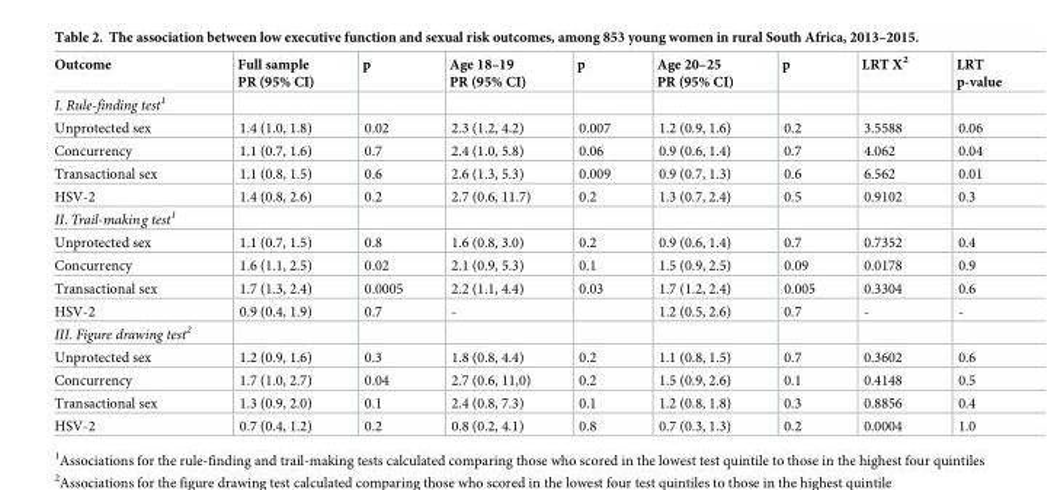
<table><thead><tr><td>Outcome</td><td>Full sample PR (95% CI)</td><td>p</td><td>Age 18–19 PR (95% CI)</td><td>p</td><td>Age 20–25 PR (95% CI)</td><td>p</td><td>LRT X<sup>2</sup></td><td>LRT p-value</td></tr></thead><tbody><tr><td colspan="9">I. Rule-finding test<sup>1</sup></td></tr><tr><td>Unprotected sex</td><td>1.4 (1.0, 1.8)</td><td>0.02</td><td>2.3 (1.2, 4.2)</td><td>0.007</td><td>1.2 (0.9, 1.6)</td><td>0.2</td><td>3.5588</td><td>0.06</td></tr><tr><td>Concurrency</td><td>1.1 (0.7, 1.6)</td><td>0.7</td><td>2.4 (1.0, 5.8)</td><td>0.06</td><td>0.9 (0.6, 1.4)</td><td>0.7</td><td>4.062</td><td>0.04</td></tr><tr><td>Transactional sex</td><td>1.1 (0.8, 1.5)</td><td>0.6</td><td>2.6 (1.3, 5.3)</td><td>0.009</td><td>0.9 (0.7, 1.3)</td><td>0.6</td><td>6.562</td><td>0.01</td></tr><tr><td>HSV-2</td><td>1.4 (0.8, 2.6)</td><td>0.2</td><td>2.7 (0.6, 11.7)</td><td>0.2</td><td>1.3 (0.7, 2.4)</td><td>0.5</td><td>0.9102</td><td>0.3</td></tr><tr><td colspan="9">II. Trail-making test<sup>1</sup></td></tr><tr><td>Unprotected sex</td><td>1.1 (0.7, 1.5)</td><td>0.8</td><td>1.6 (0.8, 3.0)</td><td>0.2</td><td>0.9 (0.6, 1.4)</td><td>0.7</td><td>0.7352</td><td>0.4</td></tr><tr><td>Concurrency</td><td>1.6 (1.1, 2.5)</td><td>0.02</td><td>2.1 (0.9, 5.3)</td><td>0.1</td><td>1.5 (0.9, 2.5)</td><td>0.09</td><td>0.0178</td><td>0.9</td></tr><tr><td>Transactional sex</td><td>1.7 (1.3, 2.4)</td><td>0.0005</td><td>2.2 (1.1, 4.4)</td><td>0.03</td><td>1.7 (1.2, 2.4)</td><td>0.005</td><td>0.3304</td><td>0.6</td></tr><tr><td>HSV-2</td><td>0.9 (0.4, 1.9)</td><td>0.7</td><td>-</td><td></td><td>1.2 (0.5, 2.6)</td><td>0.7</td><td>-</td><td>-</td></tr><tr><td colspan="9">III. Figure drawing test<sup>2</sup></td></tr><tr><td>Unprotected sex</td><td>1.2 (0.9, 1.6)</td><td>0.3</td><td>1.8 (0.8, 4.4)</td><td>0.2</td><td>1.1 (0.8, 1.5)</td><td>0.7</td><td>0.3602</td><td>0.6</td></tr><tr><td>Concurrency</td><td>1.7 (1.0, 2.7)</td><td>0.04</td><td>2.7 (0.6, 11,0)</td><td>0.2</td><td>1.5 (0.9, 2.6)</td><td>0.1</td><td>0.4148</td><td>0.5</td></tr><tr><td>Transactional sex</td><td>1.3 (0.9, 2.0)</td><td>0.1</td><td>2.4 (0.8, 7.3)</td><td>0.1</td><td>1.2 (0.8, 1.8)</td><td>0.3</td><td>0.8856</td><td>0.4</td></tr><tr><td>HSV-2</td><td>0.7 (0.4, 1.2)</td><td>0.2</td><td>0.8 (0.2, 4.1)</td><td>0.8</td><td>0.7 (0.3, 1.3)</td><td>0.2</td><td>0.0004</td><td>1.0</td></tr></tbody></table>